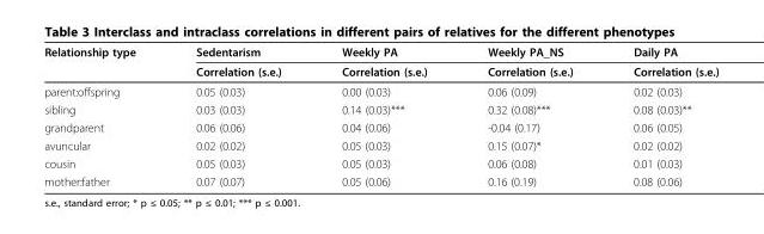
<table><thead><tr><td rowspan="2">Relationship type</td><td rowspan="2">Sedentarism Correlation (s.e.)</td><td rowspan="2">Weekly PA Correlation (s.e.)</td><td rowspan="2">Weekly PA_NS Correlation (s.e.)</td><td rowspan="2">Daily PA Correlation (s.e.)</td></tr><tr></tr></thead><tbody><tr><td>parent:offspring</td><td>0.05 (0.03)</td><td>0.00 (0.03)</td><td>0.06 (0.09)</td><td>0.02 (0.03)</td></tr><tr><td>sibling</td><td>0.03 (0.03)</td><td>0.14 (0.03)***</td><td>0.32 (0.08)***</td><td>0.08 (0.03)**</td></tr><tr><td>grandparent</td><td>0.06 (0.06)</td><td>0.04 (0.06)</td><td>-0.04 (0.17)</td><td>0.06 (0.05)</td></tr><tr><td>avuncular</td><td>0.02 (0.02)</td><td>0.05 (0.03)</td><td>0.15 (0.07)*</td><td>0.02 (0.02)</td></tr><tr><td>cousin</td><td>0.05 (0.03)</td><td>0.05 (0.03)</td><td>0.06 (0.08)</td><td>0.01 (0.03)</td></tr><tr><td>mother:father</td><td>0.07 (0.07)</td><td>0.05 (0.06)</td><td>0.16 (0.19)</td><td>0.08 (0.06)</td></tr></tbody></table>